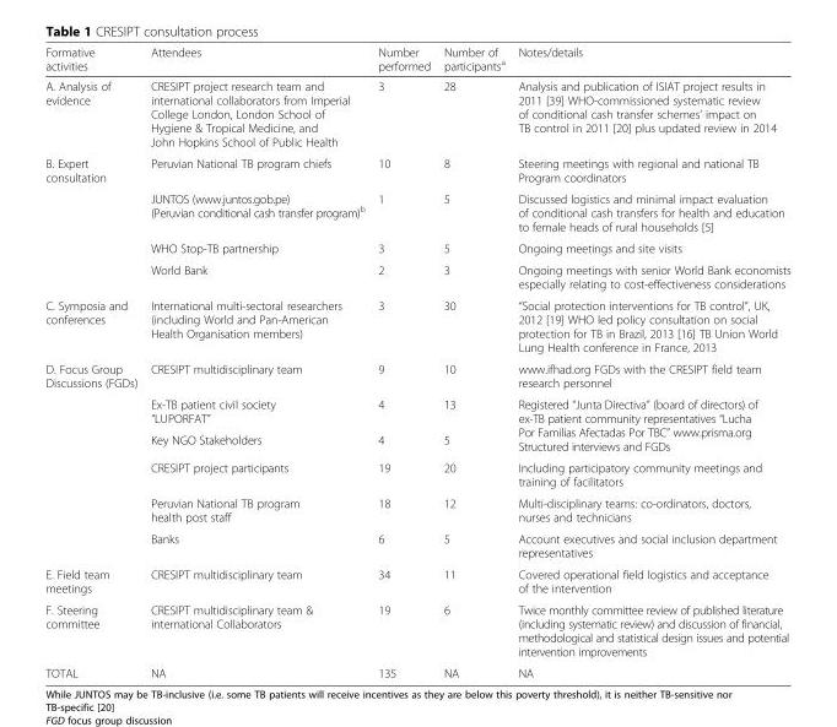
<table><thead><tr><td>Formative activities</td><td>Attendees</td><td>Number performed</td><td>Number of participants<sup>a</sup></td><td>Notes/details</td></tr></thead><tbody><tr><td>A. Analysis of evidence</td><td>CRESIPT project research team and international collaborators from Imperial College London, London School of Hygiene &amp; Tropical Medicine, and John Hopkins School of Public Health</td><td>3</td><td>28</td><td>Analysis and publication of ISIAT project results in 2011 [39] WHO-commissioned systematic review of conditional cash transfer schemes’ impact on TB control in 2011 [20] plus updated review in 2014</td></tr><tr><td rowspan="4">B. Expert consultation</td><td>Peruvian National TB program chiefs</td><td>10</td><td>8</td><td>Steering meetings with regional and national TB Program coordinators</td></tr><tr><td>JUNTOS (www.juntos.gob.pe) (Peruvian conditional cash transfer program)<sup>b</sup></td><td>1</td><td>5</td><td>Discussed logistics and minimal impact evaluation of conditional cash transfers for health and education to female heads of rural households [5]</td></tr><tr><td>WHO Stop-TB partnership</td><td>3</td><td>5</td><td>Ongoing meetings and site visits</td></tr><tr><td>World Bank</td><td>2</td><td>3</td><td>Ongoing meetings with senior World Bank economists especially relating to cost-effectiveness considerations</td></tr><tr><td>C. Symposia and conferences</td><td>International multi-sectoral researchers (including World and Pan-American Health Organisation members)</td><td>3</td><td>30</td><td>“Social protection interventions for TB control”, UK, 2012 [19] WHO led policy consultation on social protection for TB in Brazil, 2013 [16] TB Union World Lung Health conference in France, 2013</td></tr><tr><td rowspan="6">D. Focus Group Discussions (FGDs)</td><td>CRESIPT multidisciplinary team</td><td>9</td><td>10</td><td>www.ifhad.org FGDs with the CRESIPT field team research personnel</td></tr><tr><td>Ex-TB patient civil society “LUPORFAT”</td><td>4</td><td>13</td><td rowspan="2">Registered “Junta Directiva” (board of directors) of ex-TB patient community representatives “Lucha Por Familias Afectadas Por TBC” www.prisma.org Structured interviews and FGDs</td></tr><tr><td>Key NGO Stakeholders</td><td>4</td><td>5</td></tr><tr><td>CRESIPT project participants</td><td>19</td><td>20</td><td>Including participatory community meetings and training of facilitators</td></tr><tr><td>Peruvian National TB program health post staff</td><td>18</td><td>12</td><td>Multi-disciplinary teams: co-ordinators, doctors, nurses and technicians</td></tr><tr><td>Banks</td><td>6</td><td>5</td><td>Account executives and social inclusion department representatives</td></tr><tr><td>E. Field team meetings</td><td>CRESIPT multidisciplinary team</td><td>34</td><td>11</td><td>Covered operational field logistics and acceptance of the intervention</td></tr><tr><td>F. Steering committee</td><td>CRESIPT multidisciplinary team &amp; international Collaborators</td><td>19</td><td>6</td><td>Twice monthly committee review of published literature (including systematic review) and discussion of financial, methodological and statistical design issues and potential intervention improvements</td></tr><tr><td>TOTAL</td><td>NA</td><td>135</td><td>NA</td><td>NA</td></tr></tbody></table>